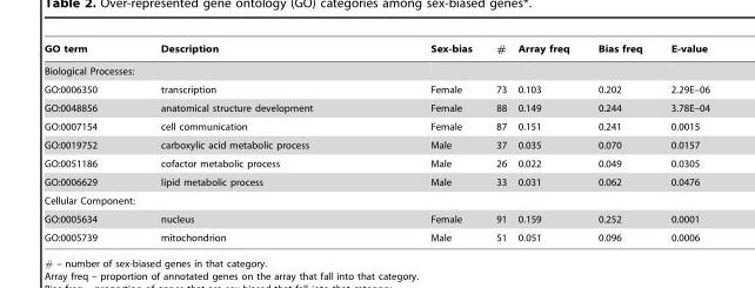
<table><thead><tr><td>GO term</td><td>Description</td><td>Sex-bias</td><td>#</td><td>Array freq</td><td>Bias freq</td><td>E-value</td></tr></thead><tbody><tr><td colspan="7">Biological Processes:</td></tr><tr><td>GO:0006350</td><td>transcription</td><td>Female</td><td>73</td><td>0.103</td><td>0.202</td><td>2.29E–06</td></tr><tr><td>GO:0048856</td><td>anatomical structure development</td><td>Female</td><td>88</td><td>0.149</td><td>0.244</td><td>3.78E–04</td></tr><tr><td>GO:0007154</td><td>cell communication</td><td>Female</td><td>87</td><td>0.151</td><td>0.241</td><td>0.0015</td></tr><tr><td>GO:0019752</td><td>carboxylic acid metabolic process</td><td>Male</td><td>37</td><td>0.035</td><td>0.070</td><td>0.0157</td></tr><tr><td>GO:0051186</td><td>cofactor metabolic process</td><td>Male</td><td>26</td><td>0.022</td><td>0.049</td><td>0.0305</td></tr><tr><td>GO:0006629</td><td>lipid metabolic process</td><td>Male</td><td>33</td><td>0.031</td><td>0.062</td><td>0.0476</td></tr><tr><td colspan="7">Cellular Component:</td></tr><tr><td>GO:0005634</td><td>nucleus</td><td>Female</td><td>91</td><td>0.159</td><td>0.252</td><td>0.0001</td></tr><tr><td>GO:0005739</td><td>mitochondrion</td><td>Male</td><td>51</td><td>0.051</td><td>0.096</td><td>0.0006</td></tr></tbody></table>